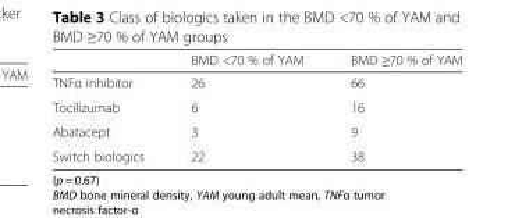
<table><thead><tr><td></td><td>BMD &lt;70 % of YAM</td><td>BMD ≥70 % of YAM</td></tr></thead><tbody><tr><td>TNFα inhibitor</td><td>26</td><td>66</td></tr><tr><td>Tocilizumab</td><td>6</td><td>16</td></tr><tr><td>Abatacept</td><td>3</td><td>9</td></tr><tr><td>Switch biologics</td><td>22</td><td>38</td></tr></tbody></table>